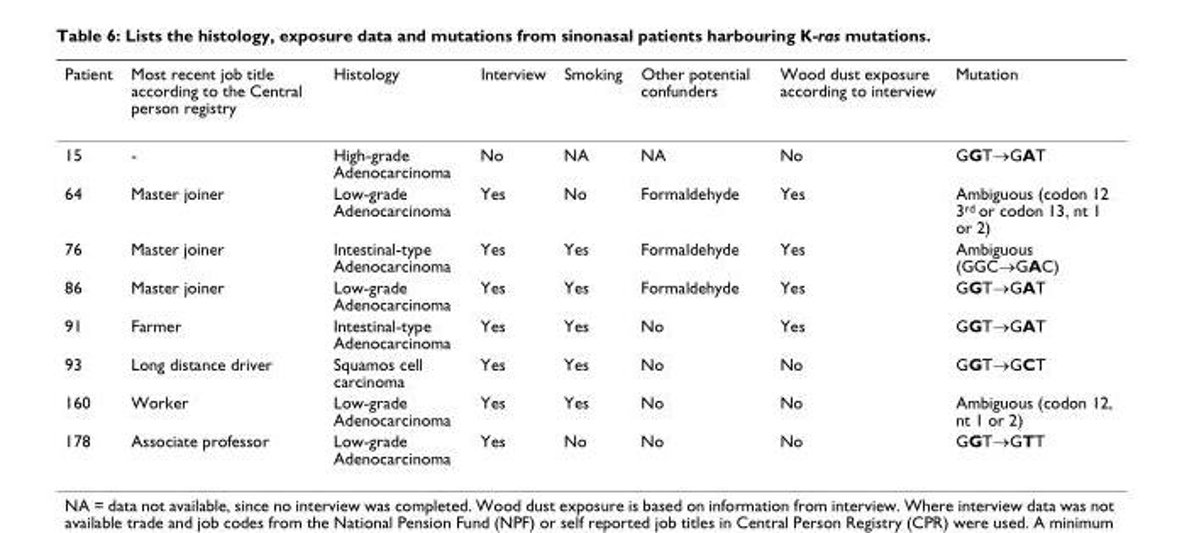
<table><thead><tr><td>Patient</td><td>Most recent job title according to the Central person registry</td><td>Histology</td><td>Interview</td><td>Smoking</td><td>Other potential confunders</td><td>Wood dust exposure according to interview</td><td>Mutation</td></tr></thead><tbody><tr><td>15</td><td>-</td><td>High-grade Adenocarcinoma</td><td>No</td><td>NA</td><td>NA</td><td>No</td><td>GGT→GAT</td></tr><tr><td>64</td><td>Master joiner</td><td>Low-grade Adenocarcinoma</td><td>Yes</td><td>No</td><td>Formaldehyde</td><td>Yes</td><td>Ambiguous (codon 12 3<sup>rd</sup> or codon 13, nt 1 or 2)</td></tr><tr><td>76</td><td>Master joiner</td><td>Intestinal-type Adenocarcinoma</td><td>Yes</td><td>Yes</td><td>Formaldehyde</td><td>Yes</td><td>Ambiguous (GGC→GAC)</td></tr><tr><td>86</td><td>Master joiner</td><td>Low-grade Adenocarcinoma</td><td>Yes</td><td>Yes</td><td>Formaldehyde</td><td>Yes</td><td>GGT→GAT</td></tr><tr><td>91</td><td>Farmer</td><td>Intestinal-type Adenocarcinoma</td><td>Yes</td><td>Yes</td><td>No</td><td>Yes</td><td>GGT→GAT</td></tr><tr><td>93</td><td>Long distance driver</td><td>Squamos cell carcinoma</td><td>Yes</td><td>Yes</td><td>No</td><td>No</td><td>GGT→GCT</td></tr><tr><td>160</td><td>Worker</td><td>Low-grade Adenocarcinoma</td><td>Yes</td><td>Yes</td><td>No</td><td>No</td><td>Ambiguous (codon 12, nt 1 or 2)</td></tr><tr><td>178</td><td>Associate professor</td><td>Low-grade Adenocarcinoma</td><td>Yes</td><td>No</td><td>No</td><td>No</td><td>GGT→GTT</td></tr></tbody></table>